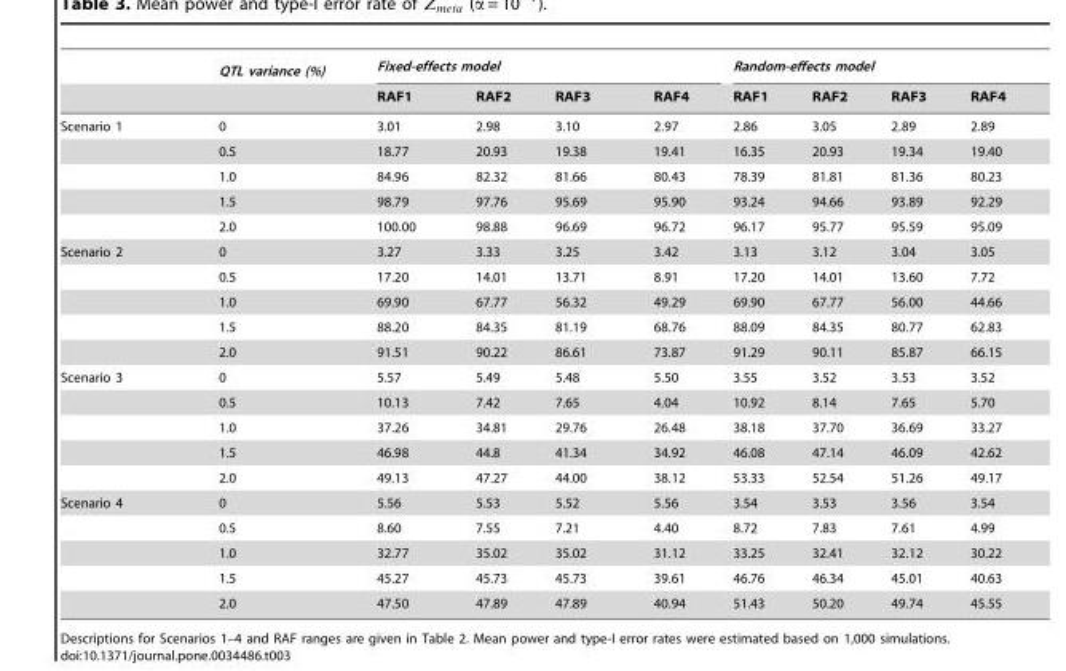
<table><thead><tr><td rowspan="2"></td><td rowspan="2">QTL variance (%)</td><td colspan="4">Fixed-effects model</td><td colspan="4">Random-effects model</td></tr><tr><td>RAF1</td><td>RAF2</td><td>RAF3</td><td>RAF4</td><td>RAF1</td><td>RAF2</td><td>RAF3</td><td>RAF4</td></tr></thead><tbody><tr><td rowspan="5">Scenario 1</td><td>0</td><td>3.01</td><td>2.98</td><td>3.10</td><td>2.97</td><td>2.86</td><td>3.05</td><td>2.89</td><td>2.89</td></tr><tr><td>0.5</td><td>18.77</td><td>20.93</td><td>19.38</td><td>19.41</td><td>16.35</td><td>20.93</td><td>19.34</td><td>19.40</td></tr><tr><td>1.0</td><td>84.96</td><td>82.32</td><td>81.66</td><td>80.43</td><td>78.39</td><td>81.81</td><td>81.36</td><td>80.23</td></tr><tr><td>1.5</td><td>98.79</td><td>97.76</td><td>95.69</td><td>95.90</td><td>93.24</td><td>94.66</td><td>93.89</td><td>92.29</td></tr><tr><td>2.0</td><td>100.00</td><td>98.88</td><td>96.69</td><td>96.72</td><td>96.17</td><td>95.77</td><td>95.59</td><td>95.09</td></tr><tr><td rowspan="5">Scenario 2</td><td>0</td><td>3.27</td><td>3.33</td><td>3.25</td><td>3.42</td><td>3.13</td><td>3.12</td><td>3.04</td><td>3.05</td></tr><tr><td>0.5</td><td>17.20</td><td>14.01</td><td>13.71</td><td>8.91</td><td>17.20</td><td>14.01</td><td>13.60</td><td>7.72</td></tr><tr><td>1.0</td><td>69.90</td><td>67.77</td><td>56.32</td><td>49.29</td><td>69.90</td><td>67.77</td><td>56.00</td><td>44.66</td></tr><tr><td>1.5</td><td>88.20</td><td>84.35</td><td>81.19</td><td>68.76</td><td>88.09</td><td>84.35</td><td>80.77</td><td>62.83</td></tr><tr><td>2.0</td><td>91.51</td><td>90.22</td><td>86.61</td><td>73.87</td><td>91.29</td><td>90.11</td><td>85.87</td><td>66.15</td></tr><tr><td rowspan="5">Scenario 3</td><td>0</td><td>5.57</td><td>5.49</td><td>5.48</td><td>5.50</td><td>3.55</td><td>3.52</td><td>3.53</td><td>3.52</td></tr><tr><td>0.5</td><td>10.13</td><td>7.42</td><td>7.65</td><td>4.04</td><td>10.92</td><td>8.14</td><td>7.65</td><td>5.70</td></tr><tr><td>1.0</td><td>37.26</td><td>34.81</td><td>29.76</td><td>26.48</td><td>38.18</td><td>37.70</td><td>36.69</td><td>33.27</td></tr><tr><td>1.5</td><td>46.98</td><td>44.8</td><td>41.34</td><td>34.92</td><td>46.08</td><td>47.14</td><td>46.09</td><td>42.62</td></tr><tr><td>2.0</td><td>49.13</td><td>47.27</td><td>44.00</td><td>38.12</td><td>53.33</td><td>52.54</td><td>51.26</td><td>49.17</td></tr><tr><td rowspan="5">Scenario 4</td><td>0</td><td>5.56</td><td>5.53</td><td>5.52</td><td>5.56</td><td>3.54</td><td>3.53</td><td>3.56</td><td>3.54</td></tr><tr><td>0.5</td><td>8.60</td><td>7.55</td><td>7.21</td><td>4.40</td><td>8.72</td><td>7.83</td><td>7.61</td><td>4.99</td></tr><tr><td>1.0</td><td>32.77</td><td>35.02</td><td>35.02</td><td>31.12</td><td>33.25</td><td>32.41</td><td>32.12</td><td>30.22</td></tr><tr><td>1.5</td><td>45.27</td><td>45.73</td><td>45.73</td><td>39.61</td><td>46.76</td><td>46.34</td><td>45.01</td><td>40.63</td></tr><tr><td>2.0</td><td>47.50</td><td>47.89</td><td>47.89</td><td>40.94</td><td>51.43</td><td>50.20</td><td>49.74</td><td>45.55</td></tr></tbody></table>